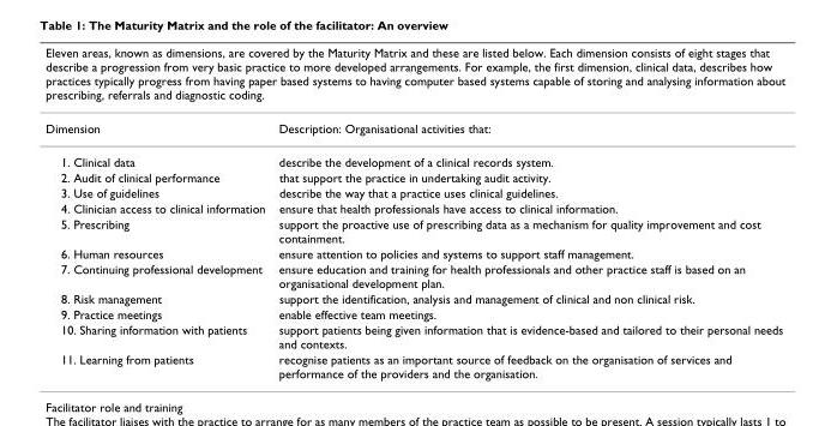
<table><thead><tr><td colspan="2">Eleven areas, known as dimensions, are covered by the Maturity Matrix and these are listed below. Each dimension consists of eight stages that describe a progression from very basic practice to more developed arrangements. For example, the first dimension, clinical data, describes how practices typically progress from having paper based systems to having computer based systems capable of storing and analysing information about prescribing, referrals and diagnostic coding.</td></tr><tr><td>Dimension</td><td>Description: Organisational activities that:</td></tr></thead><tbody><tr><td>1. Clinical data</td><td>describe the development of a clinical records system.</td></tr><tr><td>2. Audit of clinical performance</td><td>that support the practice in undertaking audit activity.</td></tr><tr><td>3. Use of guidelines</td><td>describe the way that a practice uses clinical guidelines.</td></tr><tr><td>4. Clinician access to clinical information</td><td>ensure that health professionals have access to clinical information.</td></tr><tr><td>5. Prescribing</td><td>support the proactive use of prescribing data as a mechanism for quality improvement and cost containment.</td></tr><tr><td>6. Human resources</td><td>ensure attention to policies and systems to support staff management.</td></tr><tr><td>7. Continuing professional development</td><td>ensure education and training for health professionals and other practice staff is based on an organisational development plan.</td></tr><tr><td>8. Risk management</td><td>support the identification, analysis and management of clinical and non clinical risk.</td></tr><tr><td>9. Practice meetings</td><td>enable effective team meetings.</td></tr><tr><td>10. Sharing information with patients</td><td>support patients being given information that is evidence-based and tailored to their personal needs and contexts.</td></tr><tr><td>11. Learning from patients</td><td>recognise patients as an important source of feedback on the organisation of services and performance of the providers and the organisation.</td></tr></tbody></table>